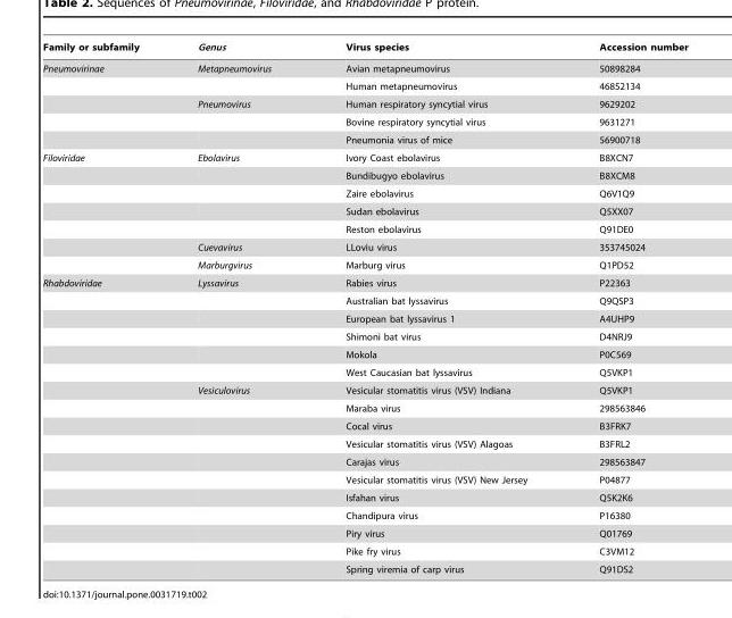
<table><thead><tr><td>Family or subfamily</td><td>Genus</td><td>Virus species</td><td>Accession number</td></tr></thead><tbody><tr><td rowspan="5">Pneumovirinae</td><td>Metapneumovirus</td><td>Avian metapneumovirus</td><td>50898284</td></tr><tr><td></td><td>Human metapneumovirus</td><td>46852134</td></tr><tr><td>Pneumovirus</td><td>Human respiratory syncytial virus</td><td>9629202</td></tr><tr><td></td><td>Bovine respiratory syncytial virus</td><td>9631271</td></tr><tr><td></td><td>Pneumonia virus of mice</td><td>56900718</td></tr><tr><td rowspan="7">Filoviridae</td><td>Ebolavirus</td><td>Ivory Coast ebolavirus</td><td>B8XCN7</td></tr><tr><td></td><td>Bundibugyo ebolavirus</td><td>B8XCM8</td></tr><tr><td></td><td>Zaire ebolavirus</td><td>Q6V1Q9</td></tr><tr><td></td><td>Sudan ebolavirus</td><td>Q5XX07</td></tr><tr><td></td><td>Reston ebolavirus</td><td>Q91DE0</td></tr><tr><td>Cuevavirus</td><td>LLoviu virus</td><td>353745024</td></tr><tr><td>Marburgvirus</td><td>Marburg virus</td><td>Q1PD52</td></tr><tr><td rowspan="17">Rhabdoviridae</td><td>Lyssavirus</td><td>Rabies virus</td><td>P22363</td></tr><tr><td></td><td>Australian bat lyssavirus</td><td>Q9QSP3</td></tr><tr><td></td><td>European bat lyssavirus 1</td><td>A4UHP9</td></tr><tr><td></td><td>Shimoni bat virus</td><td>D4NRJ9</td></tr><tr><td></td><td>Mokola</td><td>P0C569</td></tr><tr><td></td><td>West Caucasian bat lyssavirus</td><td>Q5VKP1</td></tr><tr><td>Vesiculovirus</td><td>Vesicular stomatitis virus (VSV) Indiana</td><td>Q5VKP1</td></tr><tr><td></td><td>Maraba virus</td><td>298563846</td></tr><tr><td></td><td>Cocal virus</td><td>B3FRK7</td></tr><tr><td></td><td>Vesicular stomatitis virus (VSV) Alagoas</td><td>B3FRL2</td></tr><tr><td></td><td>Carajas virus</td><td>298563847</td></tr><tr><td></td><td>Vesicular stomatitis virus (VSV) New Jersey</td><td>P04877</td></tr><tr><td></td><td>Isfahan virus</td><td>Q5K2K6</td></tr><tr><td></td><td>Chandipura virus</td><td>P16380</td></tr><tr><td></td><td>Piry virus</td><td>Q01769</td></tr><tr><td></td><td>Pike fry virus</td><td>C3VM12</td></tr><tr><td></td><td>Spring viremia of carp virus</td><td>Q91DS2</td></tr></tbody></table>